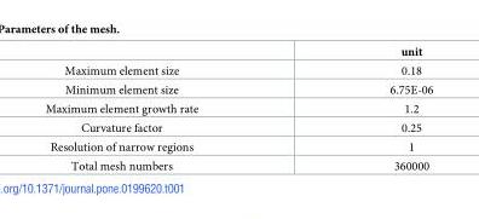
<table><thead><tr><td></td><td>unit</td></tr></thead><tbody><tr><td>Maximum element size</td><td>0.18</td></tr><tr><td>Minimum element size</td><td>6.75E-06</td></tr><tr><td>Maximum element growth rate</td><td>1.2</td></tr><tr><td>Curvature factor</td><td>0.25</td></tr><tr><td>Resolution of narrow regions</td><td>1</td></tr><tr><td>Total mesh numbers</td><td>360000</td></tr></tbody></table>